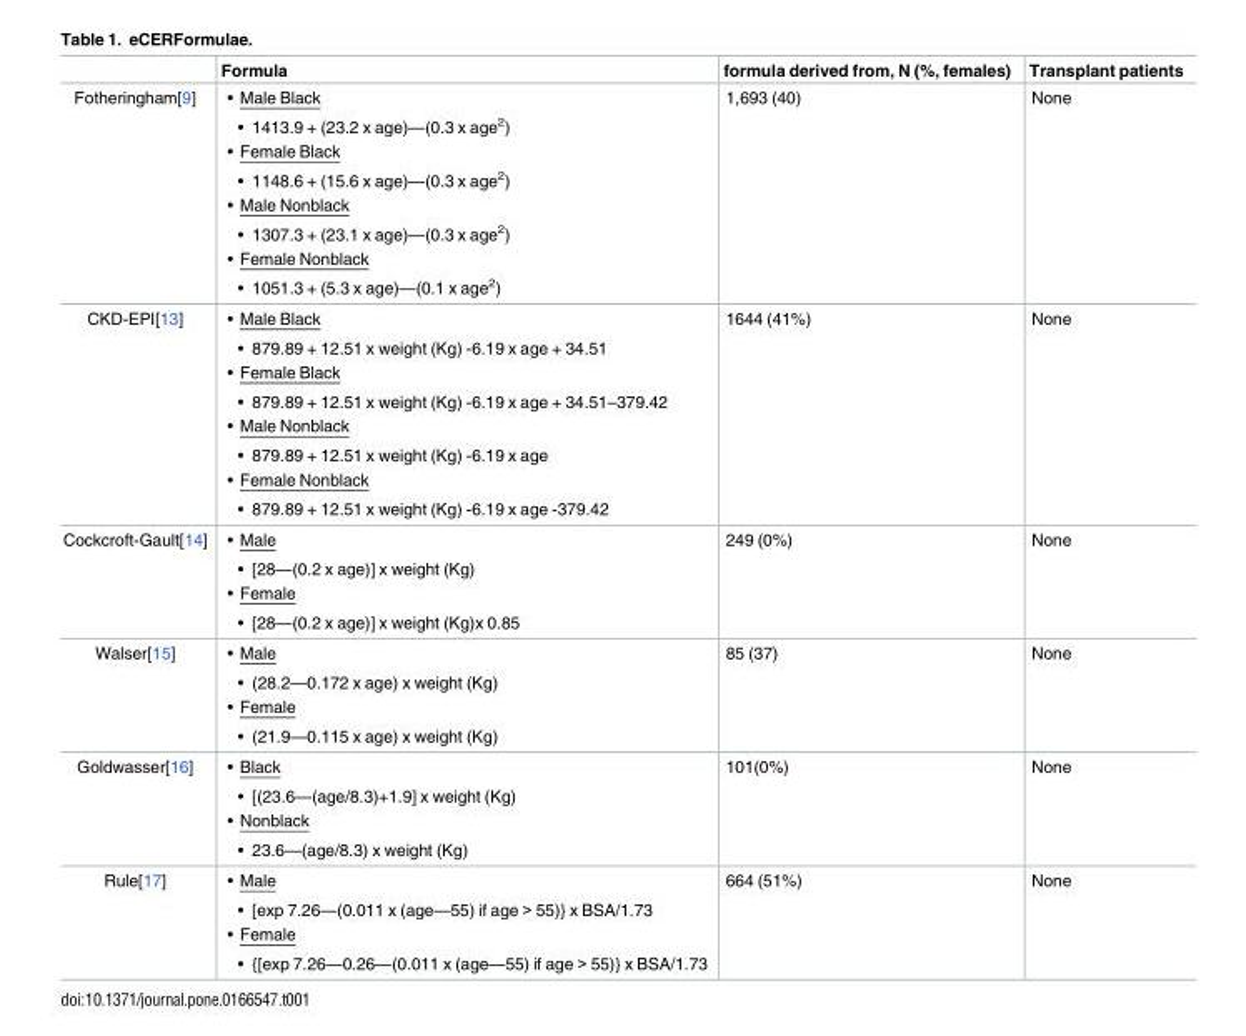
<table><thead><tr><td></td><td>Formula</td><td>formula derived from, N (%, females)</td><td>Transplant patients</td></tr></thead><tbody><tr><td>Fotheringham[9]</td><td>• Male Black • 1413.9 + (23.2 x age)—(0.3 x age2) • Female Black • 1148.6 + (15.6 x age)—(0.3 x age2) • Male Nonblack • 1307.3 + (23.1 x age)—(0.3 x age2) • Female Nonblack • 1051.3 + (5.3 x age)—(0.1 x age2)</td><td>1,693 (40)</td><td>None</td></tr><tr><td>CKD-EPI[13]</td><td>• Male Black • 879.89 + 12.51 x weight (Kg) -6.19 x age + 34.51 • Female Black • 879.89 + 12.51 x weight (Kg) -6.19 x age + 34.51–379.42 • Male Nonblack • 879.89 + 12.51 x weight (Kg) -6.19 x age • Female Nonblack • 879.89 + 12.51 x weight (Kg) -6.19 x age -379.42</td><td>1644 (41%)</td><td>None</td></tr><tr><td>Cockcroft-Gault[14]</td><td>• Male • [28—(0.2 x age)] x weight (Kg) • Female • [28—(0.2 x age)] x weight (Kg)x 0.85</td><td>249 (0%)</td><td>None</td></tr><tr><td>Walser[15]</td><td>• Male • (28.2—0.172 x age) x weight (Kg) • Female • (21.9—0.115 x age) x weight (Kg)</td><td>85 (37)</td><td>None</td></tr><tr><td>Goldwasser[16]</td><td>• Black • [(23.6—(age/8.3)+1.9] x weight (Kg) • Nonblack • 23.6—(age/8.3) x weight (Kg)</td><td>101(0%)</td><td>None</td></tr><tr><td>Rule[17]</td><td>• Male • [exp 7.26—(0.011 x (age—55) if age &gt; 55)} x BSA/1.73 • Female • {[exp 7.26—0.26—(0.011 x (age—55) if age &gt; 55)} x BSA/1.73</td><td>664 (51%)</td><td>None</td></tr></tbody></table>